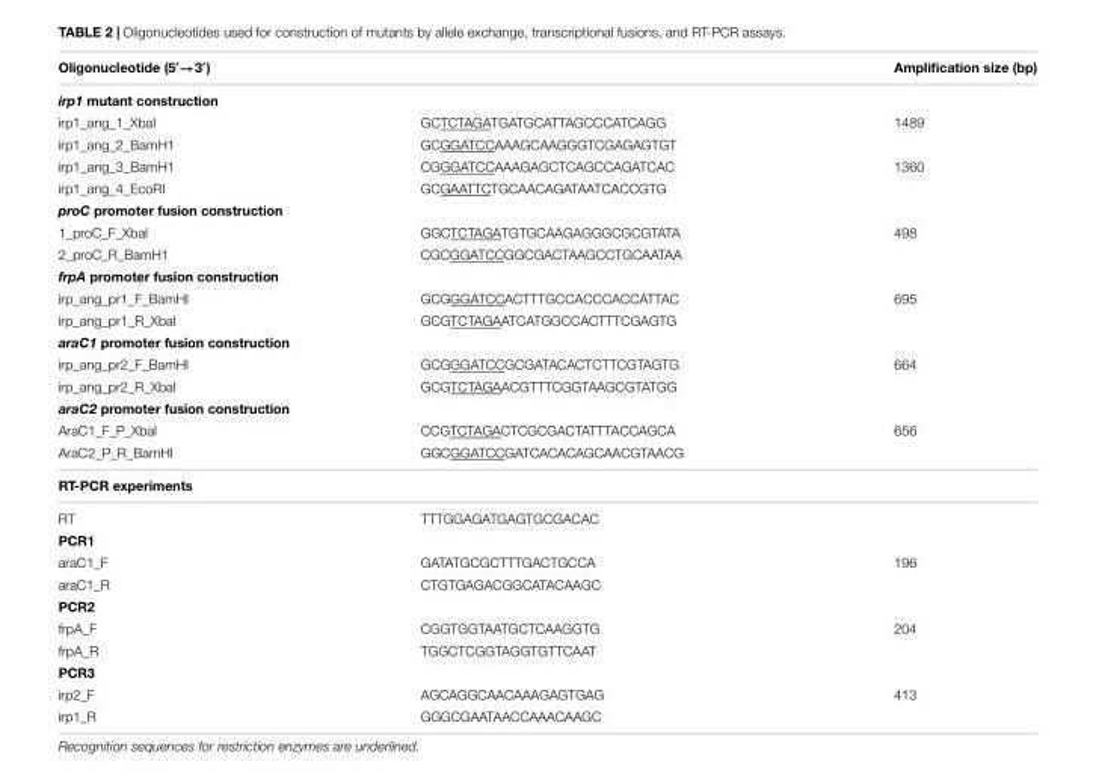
<table><thead><tr><td>Oligonucleotide (5′→3′)</td><td></td><td>Amplification size (bp)</td></tr></thead><tbody><tr><td colspan="3">irp1 mutant construction</td></tr><tr><td>irp1_ang_1_XbaI</td><td>GCTCTAGATGATGCATTAGCCCATCAGG</td><td>1489</td></tr><tr><td>irp1_ang_2_BamH1</td><td>GCGGATCCAAAGCAAGGGTCGAGAGTGT</td><td></td></tr><tr><td>irp1_ang_3_BamH1</td><td>CGGGATCCAAAGAGCTCAGCCAGATCAC</td><td>1360</td></tr><tr><td>irp1_ang_4_EcoRI</td><td>GCGAATTCTGCAACAGATAATCACCGTG</td><td></td></tr><tr><td colspan="3">proC promoter fusion construction</td></tr><tr><td>1_proC_F_XbaI</td><td>GGCTCTAGATGTGCAAGAGGGCGCGTATA</td><td>498</td></tr><tr><td>2_proC_R_BamH1</td><td>CGCGGATCCGGCGACTAAGCCTGCAATAA</td><td></td></tr><tr><td colspan="3">frpA promoter fusion construction</td></tr><tr><td>irp_ang_pr1_F_BamHI</td><td>GCGGGATCCACTTTGCCACCCACCATTAC</td><td>695</td></tr><tr><td>irp_ang_pr1_R_XbaI</td><td>GCGTCTAGAATCATGGCCACTTTCGAGTG</td><td></td></tr><tr><td colspan="3">araC1 promoter fusion construction</td></tr><tr><td>irp_ang_pr2_F_BamHI</td><td>GCGGGATCCGCGATACACTCTTCGTAGTG</td><td>664</td></tr><tr><td>irp_ang_pr2_R_XbaI</td><td>GCGTCTAGAACGTTTCGGTAAGCGTATGG</td><td></td></tr><tr><td colspan="3">araC2 promoter fusion construction</td></tr><tr><td>AraC1_F_P_XbaI</td><td>CCGTCTAGACTCGCGACTATTTACCAGCA</td><td>656</td></tr><tr><td>AraC2_P_R_BamHI</td><td>GGCGGATCCGATCACACAGCAACGTAACG</td><td></td></tr><tr><td colspan="3">RT-PCR experiments</td></tr><tr><td>RT</td><td>TTTGGAGATGAGTGCGACAC</td><td></td></tr><tr><td colspan="3">PCR1</td></tr><tr><td>araC1_F</td><td>GATATGCGCTTTGACTGCCA</td><td>196</td></tr><tr><td>araC1_R</td><td>CTGTGAGACGGCATACAAGC</td><td></td></tr><tr><td colspan="3">PCR2</td></tr><tr><td>frpA_F</td><td>CGGTGGTAATGCTCAAGGTG</td><td>204</td></tr><tr><td>frpA_R</td><td>TGGCTCGGTAGGTGTTCAAT</td><td></td></tr><tr><td colspan="3">PCR3</td></tr><tr><td>irp2_F</td><td>AGCAGGCAACAAAGAGTGAG</td><td>413</td></tr><tr><td>irp1_R</td><td>GGGCGAATAACCAAACAAGC</td><td></td></tr></tbody></table>